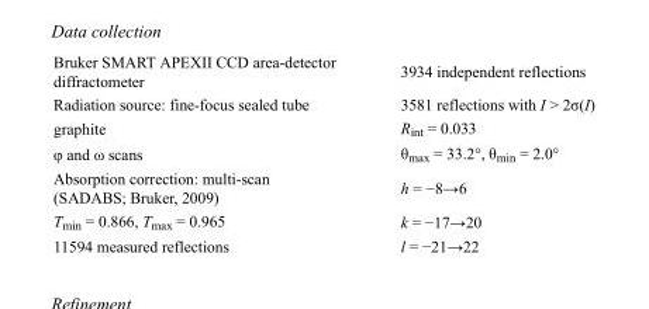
<table><tbody><tr><td>Bruker SMART APEXII CCD area-detector diffractometer</td><td>3934 independent reflections</td></tr><tr><td>Radiation source: fine-focus sealed tube</td><td>3581 reflections with I &gt; 2σ(I)</td></tr><tr><td>graphite</td><td>R<sub>int</sub> = 0.033</td></tr><tr><td>φ and ω scans</td><td>θ<sub>max</sub> = 33.2°, θ<sub>min</sub> = 2.0°</td></tr><tr><td>Absorption correction: multi-scan (SADABS; Bruker, 2009)</td><td>h = −8→6</td></tr><tr><td>T<sub>min</sub> = 0.866, T<sub>max</sub> = 0.965</td><td>k = −17→20</td></tr><tr><td>11594 measured reflections</td><td>l = −21→22</td></tr></tbody></table>